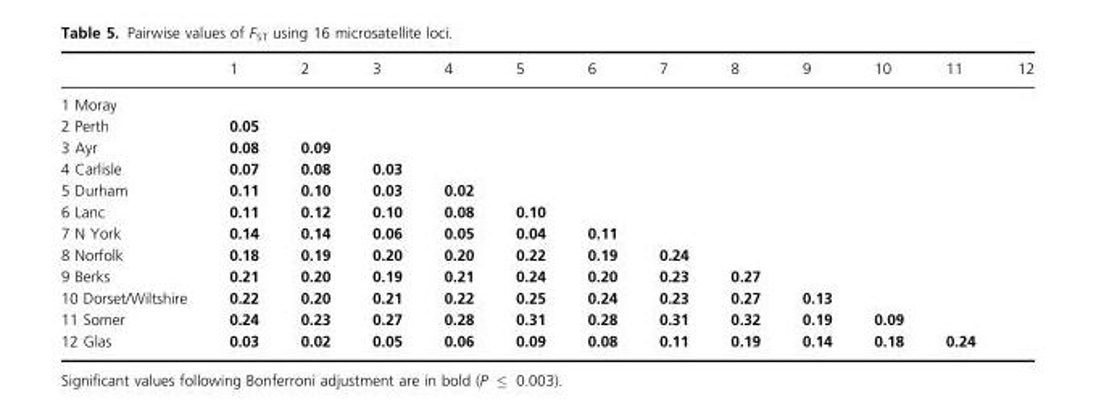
<table><thead><tr><td></td><td>1</td><td>2</td><td>3</td><td>4</td><td>5</td><td>6</td><td>7</td><td>8</td><td>9</td><td>10</td><td>11</td><td>12</td></tr></thead><tbody><tr><td colspan="13">1 Moray</td></tr><tr><td>2 Perth</td><td>0.05</td><td></td><td></td><td></td><td></td><td></td><td></td><td></td><td></td><td></td><td></td><td></td></tr><tr><td>3 Ayr</td><td>0.08</td><td>0.09</td><td></td><td></td><td></td><td></td><td></td><td></td><td></td><td></td><td></td><td></td></tr><tr><td>4 Carlisle</td><td>0.07</td><td>0.08</td><td>0.03</td><td></td><td></td><td></td><td></td><td></td><td></td><td></td><td></td><td></td></tr><tr><td>5 Durham</td><td>0.11</td><td>0.10</td><td>0.03</td><td>0.02</td><td></td><td></td><td></td><td></td><td></td><td></td><td></td><td></td></tr><tr><td>6 Lanc</td><td>0.11</td><td>0.12</td><td>0.10</td><td>0.08</td><td>0.10</td><td></td><td></td><td></td><td></td><td></td><td></td><td></td></tr><tr><td>7 N York</td><td>0.14</td><td>0.14</td><td>0.06</td><td>0.05</td><td>0.04</td><td>0.11</td><td></td><td></td><td></td><td></td><td></td><td></td></tr><tr><td>8 Norfolk</td><td>0.18</td><td>0.19</td><td>0.20</td><td>0.20</td><td>0.22</td><td>0.19</td><td>0.24</td><td></td><td></td><td></td><td></td><td></td></tr><tr><td>9 Berks</td><td>0.21</td><td>0.20</td><td>0.19</td><td>0.21</td><td>0.24</td><td>0.20</td><td>0.23</td><td>0.27</td><td></td><td></td><td></td><td></td></tr><tr><td>10 Dorset/Wiltshire</td><td>0.22</td><td>0.20</td><td>0.21</td><td>0.22</td><td>0.25</td><td>0.24</td><td>0.23</td><td>0.27</td><td>0.13</td><td></td><td></td><td></td></tr><tr><td>11 Somer</td><td>0.24</td><td>0.23</td><td>0.27</td><td>0.28</td><td>0.31</td><td>0.28</td><td>0.31</td><td>0.32</td><td>0.19</td><td>0.09</td><td></td><td></td></tr><tr><td>12 Glas</td><td>0.03</td><td>0.02</td><td>0.05</td><td>0.06</td><td>0.09</td><td>0.08</td><td>0.11</td><td>0.19</td><td>0.14</td><td>0.18</td><td>0.24</td><td></td></tr></tbody></table>